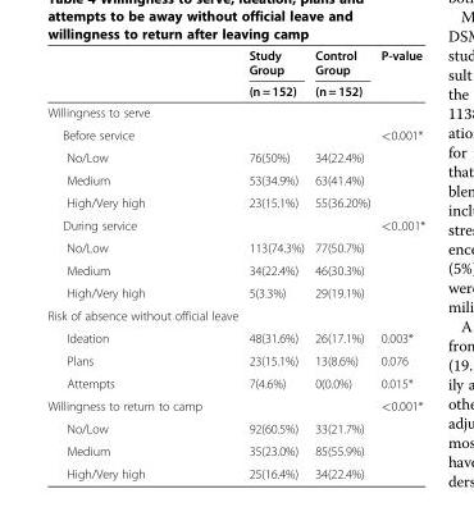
<table><thead><tr><td rowspan="2"></td><td rowspan="2">Study Group (n = 152)</td><td rowspan="2">Control Group (n = 152)</td><td rowspan="2">P-value</td></tr><tr></tr></thead><tbody><tr><td colspan="4">Willingness to serve</td></tr><tr><td>Before service</td><td></td><td></td><td>&lt;0.001*</td></tr><tr><td>No/Low</td><td>76(50%)</td><td>34(22.4%)</td><td></td></tr><tr><td>Medium</td><td>53(34.9%)</td><td>63(41.4%)</td><td></td></tr><tr><td>High/Very high</td><td>23(15.1%)</td><td>55(36.20%)</td><td></td></tr><tr><td>During service</td><td></td><td></td><td>&lt;0..001*</td></tr><tr><td>No/Low</td><td>113(74.3%)</td><td>77(50.7%)</td><td></td></tr><tr><td>Medium</td><td>34(22.4%)</td><td>46(30.3%)</td><td></td></tr><tr><td>High/Very high</td><td>5(3.3%)</td><td>29(19.1%)</td><td></td></tr><tr><td colspan="4">Risk of absence without official leave</td></tr><tr><td>Ideation</td><td>48(31.6%)</td><td>26(17.1%)</td><td>0.003*</td></tr><tr><td>Plans</td><td>23(15.1%)</td><td>13(8.6%)</td><td>0.076</td></tr><tr><td>Attempts</td><td>7(4.6%)</td><td>0(0.0%)</td><td>0.015*</td></tr><tr><td>Willingness to return to camp</td><td></td><td></td><td>&lt;0.001*</td></tr><tr><td>No/Low</td><td>92(60.5%)</td><td>33(21.7%)</td><td></td></tr><tr><td>Medium</td><td>35(23.0%)</td><td>85(55.9%)</td><td></td></tr><tr><td>High/Very high</td><td>25(16.4%)</td><td>34(22.4%)</td><td></td></tr></tbody></table>